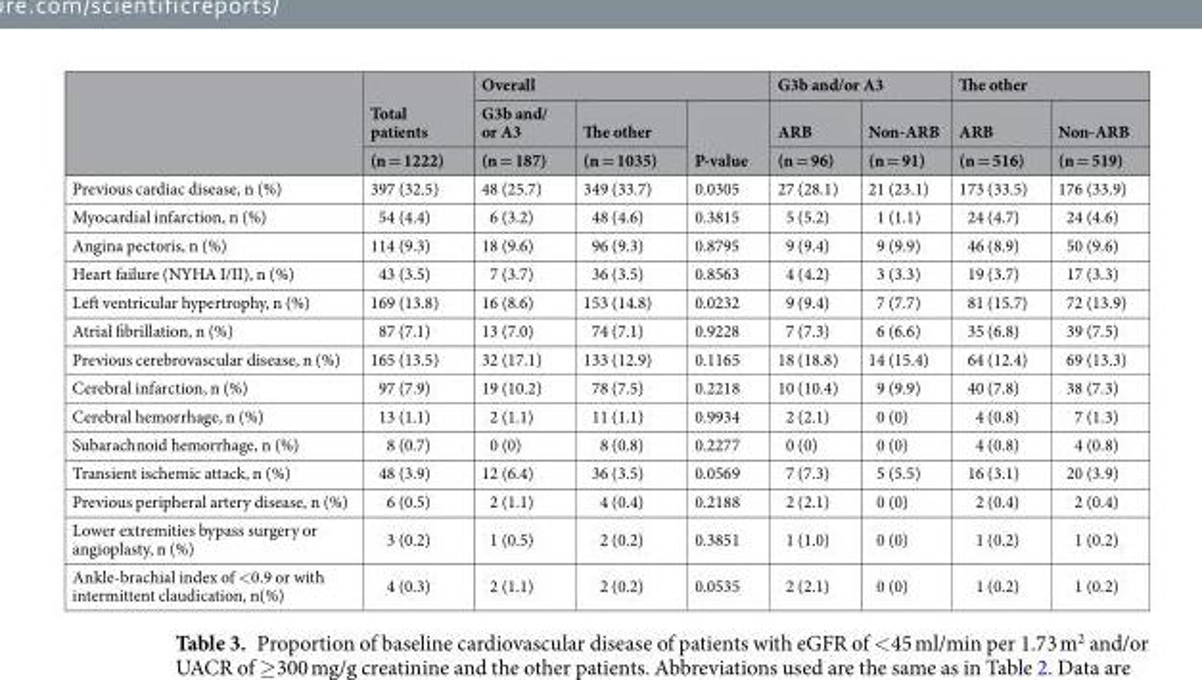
<table><thead><tr><td rowspan="3"></td><td rowspan="3">Total patients (n = 1222)</td><td colspan="3">Overall</td><td colspan="2">G3b and/or A3</td><td colspan="2">The other</td></tr><tr><td rowspan="2">G3b and/ or A3 (n = 187)</td><td rowspan="2">The other (n = 1035)</td><td rowspan="2">P-value</td><td rowspan="2">ARB (n = 96)</td><td rowspan="2">Non-ARB (n = 91)</td><td rowspan="2">ARB (n = 516)</td><td rowspan="2">Non-ARB (n = 519)</td></tr><tr></tr></thead><tbody><tr><td>Previous cardiac disease, n (%)</td><td>397 (32.5)</td><td>48 (25.7)</td><td>349 (33.7)</td><td>0.0305</td><td>27 (28.1)</td><td>21 (23.1)</td><td>173 (33.5)</td><td>176 (33.9)</td></tr><tr><td>Myocardial infarction, n (%)</td><td>54 (4.4)</td><td>6 (3.2)</td><td>48 (4.6)</td><td>0.3815</td><td>5 (5.2)</td><td>1 (1.1)</td><td>24 (4.7)</td><td>24 (4.6)</td></tr><tr><td>Angina pectoris, n (%)</td><td>114 (9.3)</td><td>18 (9.6)</td><td>96 (9.3)</td><td>0.8795</td><td>9 (9.4)</td><td>9 (9.9)</td><td>46 (8.9)</td><td>50 (9.6)</td></tr><tr><td>Heart failure (NYHA I/II), n (%)</td><td>43 (3.5)</td><td>7 (3.7)</td><td>36 (3.5)</td><td>0.8563</td><td>4 (4.2)</td><td>3 (3.3)</td><td>19 (3.7)</td><td>17 (3.3)</td></tr><tr><td>Left ventricular hypertrophy, n (%)</td><td>169 (13.8)</td><td>16 (8.6)</td><td>153 (14.8)</td><td>0.0232</td><td>9 (9.4)</td><td>7 (7.7)</td><td>81 (15.7)</td><td>72 (13.9)</td></tr><tr><td>Atrial fibrillation, n (%)</td><td>87 (7.1)</td><td>13 (7.0)</td><td>74 (7.1)</td><td>0.9228</td><td>7 (7.3)</td><td>6 (6.6)</td><td>35 (6.8)</td><td>39 (7.5)</td></tr><tr><td>Previous cerebrovascular disease, n (%)</td><td>165 (13.5)</td><td>32 (17.1)</td><td>133 (12.9)</td><td>0.1165</td><td>18 (18.8)</td><td>14 (15.4)</td><td>64 (12.4)</td><td>69 (13.3)</td></tr><tr><td>Cerebral infarction, n (%)</td><td>97 (7.9)</td><td>19 (10.2)</td><td>78 (7.5)</td><td>0.2218</td><td>10 (10.4)</td><td>9 (9.9)</td><td>40 (7.8)</td><td>38 (7.3)</td></tr><tr><td>Cerebral hemorrhage, n (%)</td><td>13 (1.1)</td><td>2 (1.1)</td><td>11 (1.1)</td><td>0.9934</td><td>2 (2.1)</td><td>0 (0)</td><td>4 (0.8)</td><td>7 (1.3)</td></tr><tr><td>Subarachnoid hemorrhage, n (%)</td><td>8 (0.7)</td><td>0 (0)</td><td>8 (0.8)</td><td>0.2277</td><td>0 (0)</td><td>0 (0)</td><td>4 (0.8)</td><td>4 (0.8)</td></tr><tr><td>Transient ischemic attack, n (%)</td><td>48 (3.9)</td><td>12 (6.4)</td><td>36 (3.5)</td><td>0.0569</td><td>7 (7.3)</td><td>5 (5.5)</td><td>16 (3.1)</td><td>20 (3.9)</td></tr><tr><td>Previous peripheral artery disease, n (%)</td><td>6 (0.5)</td><td>2 (1.1)</td><td>4 (0.4)</td><td>0.2188</td><td>2 (2.1)</td><td>0 (0)</td><td>2 (0.4)</td><td>2 (0.4)</td></tr><tr><td>Lower extremities bypass surgery or angioplasty, n (%)</td><td>3 (0.2)</td><td>1 (0.5)</td><td>2 (0.2)</td><td>0.3851</td><td>1 (1.0)</td><td>0 (0)</td><td>1 (0.2)</td><td>1 (0.2)</td></tr><tr><td>Ankle-brachial index of &lt;0.9 or with intermittent claudication, n(%)</td><td>4 (0.3)</td><td>2 (1.1)</td><td>2 (0.2)</td><td>0.0535</td><td>2 (2.1)</td><td>0 (0)</td><td>1 (0.2)</td><td>1 (0.2)</td></tr></tbody></table>